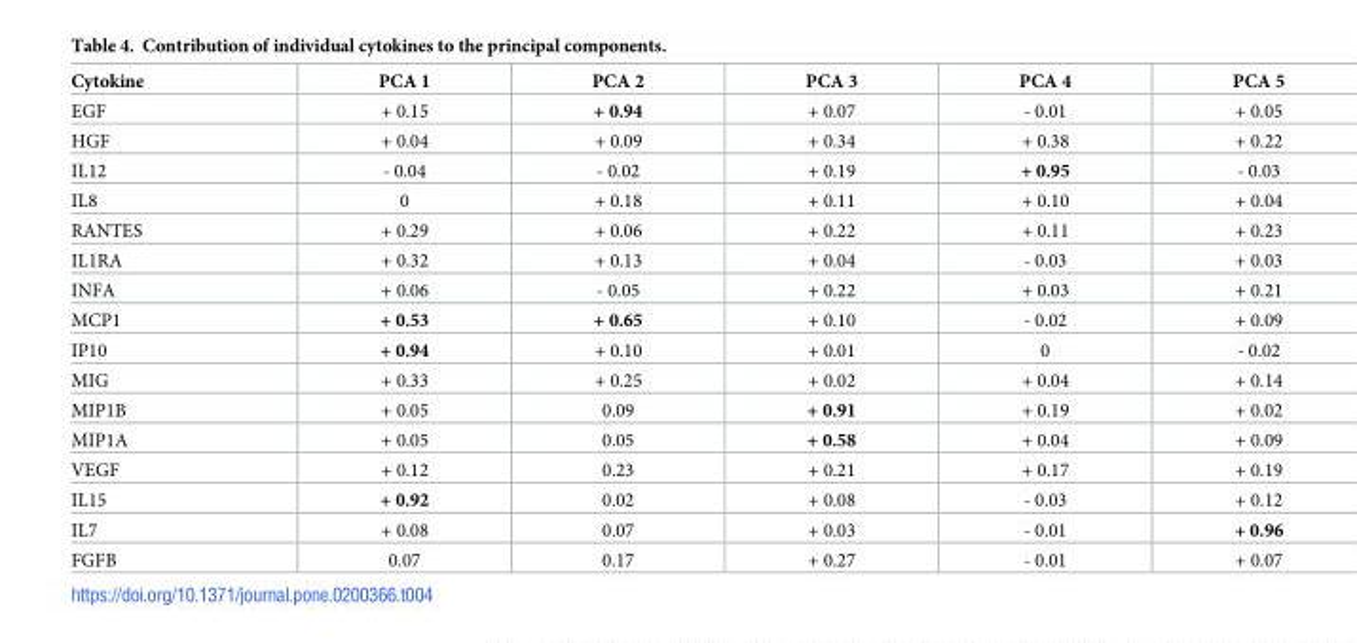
<table><thead><tr><td>Cytokine</td><td>PCA 1</td><td>PCA 2</td><td>PCA 3</td><td>PCA 4</td><td>PCA 5</td></tr></thead><tbody><tr><td>EGF</td><td>+ 0.15</td><td>+ 0.94</td><td>+ 0.07</td><td>- 0.01</td><td>+ 0.05</td></tr><tr><td>HGF</td><td>+ 0.04</td><td>+ 0.09</td><td>+ 0.34</td><td>+ 0.38</td><td>+ 0.22</td></tr><tr><td>IL12</td><td>- 0.04</td><td>- 0.02</td><td>+ 0.19</td><td>+ 0.95</td><td>- 0.03</td></tr><tr><td>IL8</td><td>0</td><td>+ 0.18</td><td>+ 0.11</td><td>+ 0.10</td><td>+ 0.04</td></tr><tr><td>RANTES</td><td>+ 0.29</td><td>+ 0.06</td><td>+ 0.22</td><td>+ 0.11</td><td>+ 0.23</td></tr><tr><td>IL1RA</td><td>+ 0.32</td><td>+ 0.13</td><td>+ 0.04</td><td>- 0.03</td><td>+ 0.03</td></tr><tr><td>INFA</td><td>+ 0.06</td><td>- 0.05</td><td>+ 0.22</td><td>+ 0.03</td><td>+ 0.21</td></tr><tr><td>MCP1</td><td>+ 0.53</td><td>+ 0.65</td><td>+ 0.10</td><td>- 0.02</td><td>+ 0.09</td></tr><tr><td>IP10</td><td>+ 0.94</td><td>+ 0.10</td><td>+ 0.01</td><td>0</td><td>- 0.02</td></tr><tr><td>MIG</td><td>+ 0.33</td><td>+ 0.25</td><td>+ 0.02</td><td>+ 0.04</td><td>+ 0.14</td></tr><tr><td>MIP1B</td><td>+ 0.05</td><td>0.09</td><td>+ 0.91</td><td>+ 0.19</td><td>+ 0.02</td></tr><tr><td>MIP1A</td><td>+ 0.05</td><td>0.05</td><td>+ 0.58</td><td>+ 0.04</td><td>+ 0.09</td></tr><tr><td>VEGF</td><td>+ 0.12</td><td>0.23</td><td>+ 0.21</td><td>+ 0.17</td><td>+ 0.19</td></tr><tr><td>IL15</td><td>+ 0.92</td><td>0.02</td><td>+ 0.08</td><td>- 0.03</td><td>+ 0.12</td></tr><tr><td>IL7</td><td>+ 0.08</td><td>0.07</td><td>+ 0.03</td><td>- 0.01</td><td>+ 0.96</td></tr><tr><td>FGFB</td><td>0.07</td><td>0.17</td><td>+ 0.27</td><td>- 0.01</td><td>+ 0.07</td></tr></tbody></table>